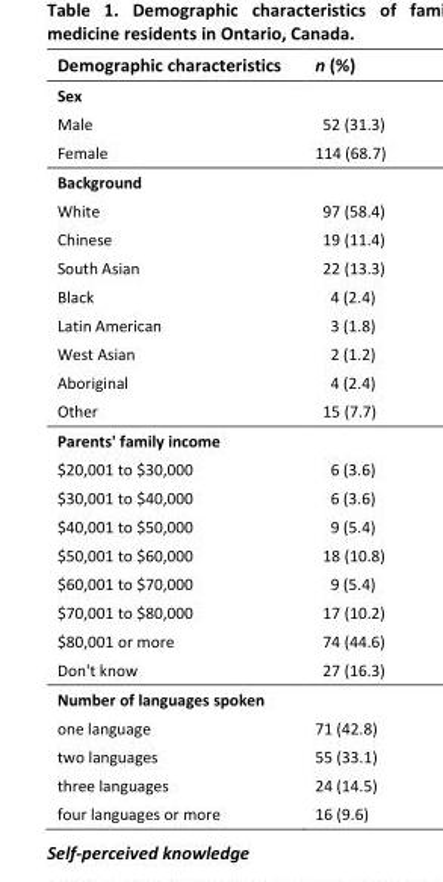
<table><thead><tr><td>Demographic characteristics</td><td>n (%)</td></tr></thead><tbody><tr><td colspan="2">Sex</td></tr><tr><td>Male</td><td>52 (31.3)</td></tr><tr><td>Female</td><td>114 (68.7)</td></tr><tr><td colspan="2">Background</td></tr><tr><td>White</td><td>97 (58.4)</td></tr><tr><td>Chinese</td><td>19 (11.4)</td></tr><tr><td>South Asian</td><td>22 (13.3)</td></tr><tr><td>Black</td><td>4 (2.4)</td></tr><tr><td>Latin American</td><td>3 (1.8)</td></tr><tr><td>West Asian</td><td>2 (1.2)</td></tr><tr><td>Aboriginal</td><td>4 (2.4)</td></tr><tr><td>Other</td><td>15 (7.7)</td></tr><tr><td colspan="2">Parents&#x27; family income</td></tr><tr><td>$20,001 to $30,000</td><td>6 (3.6)</td></tr><tr><td>$30,001 to $40,000</td><td>6 (3.6)</td></tr><tr><td>$40,001 to $50,000</td><td>9 (5.4)</td></tr><tr><td>$50,001 to $60,000</td><td>18 (10.8)</td></tr><tr><td>$60,001 to $70,000</td><td>9 (5.4)</td></tr><tr><td>$70,001 to $80,000</td><td>17 (10.2)</td></tr><tr><td>$80,001 or more</td><td>74 (44.6)</td></tr><tr><td>Don&#x27;t know</td><td>27 (16.3)</td></tr><tr><td colspan="2">Number of languages spoken</td></tr><tr><td>one language</td><td>71 (42.8)</td></tr><tr><td>two languages</td><td>55 (33.1)</td></tr><tr><td>three languages</td><td>24 (14.5)</td></tr><tr><td>four languages or more</td><td>16 (9.6)</td></tr></tbody></table>